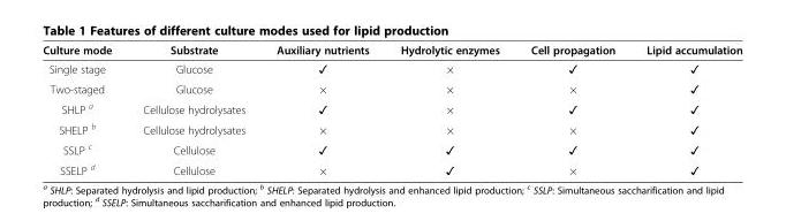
<table><thead><tr><td>Culture mode</td><td>Substrate</td><td>Auxiliary nutrients</td><td>Hydrolytic enzymes</td><td>Cell propagation</td><td>Lipid accumulation</td></tr></thead><tbody><tr><td>Single stage</td><td>Glucose</td><td>✓</td><td>×</td><td>✓</td><td>✓</td></tr><tr><td>Two-staged</td><td>Glucose</td><td>×</td><td>×</td><td>×</td><td>✓</td></tr><tr><td>SHLP <sup>a</sup></td><td>Cellulose hydrolysates</td><td>✓</td><td>×</td><td>✓</td><td>✓</td></tr><tr><td>SHELP <sup>b</sup></td><td>Cellulose hydrolysates</td><td>×</td><td>×</td><td>×</td><td>✓</td></tr><tr><td>SSLP <sup>c</sup></td><td>Cellulose</td><td>✓</td><td>✓</td><td>✓</td><td>✓</td></tr><tr><td>SSELP <sup>d</sup></td><td>Cellulose</td><td>×</td><td>✓</td><td>×</td><td>✓</td></tr></tbody></table>